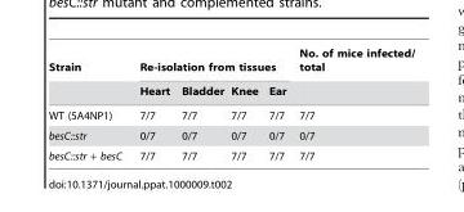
<table><thead><tr><td rowspan="2">Strain</td><td colspan="4">Re-isolation from tissues</td><td rowspan="2">No. of mice infected/ total</td></tr><tr><td>Heart</td><td>Bladder</td><td>Knee</td><td>Ear</td></tr></thead><tbody><tr><td>WT (5A4NP1)</td><td>7/7</td><td>7/7</td><td>7/7</td><td>7/7</td><td>7/7</td></tr><tr><td>besC::str</td><td>0/7</td><td>0/7</td><td>0/7</td><td>0/7</td><td>0/7</td></tr><tr><td>besC::str + besC</td><td>7/7</td><td>7/7</td><td>7/7</td><td>7/7</td><td>7/7</td></tr></tbody></table>